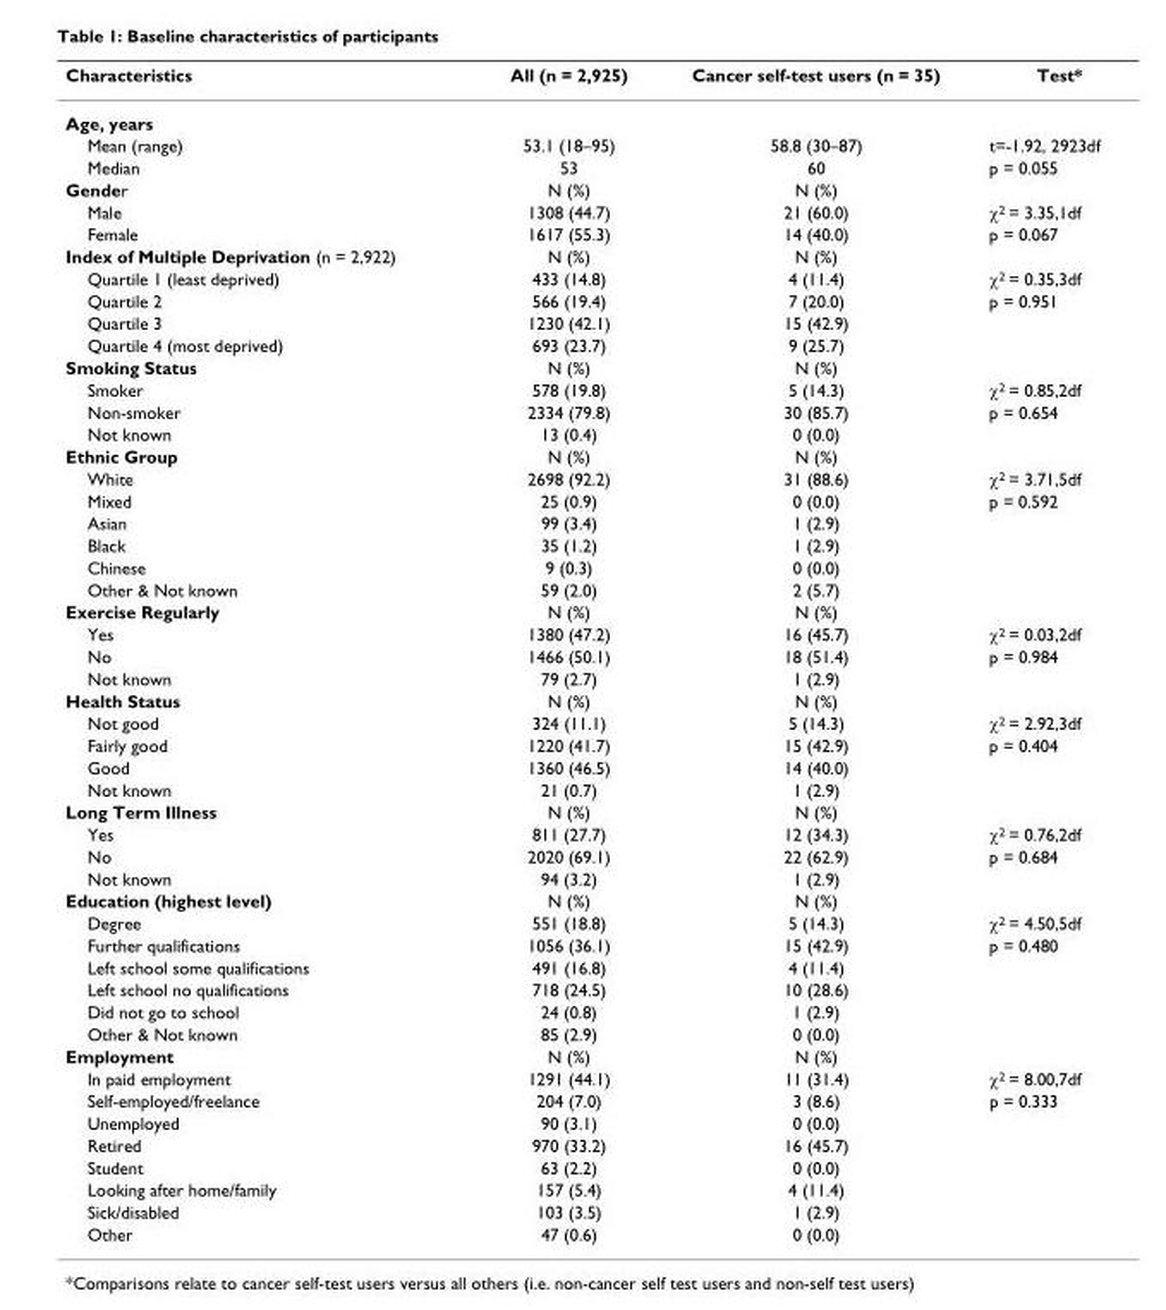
<table><thead><tr><td>Characteristics</td><td>All (n = 2,925)</td><td>Cancer self-test users (n = 35)</td><td>Test*</td></tr></thead><tbody><tr><td colspan="4">Age, years</td></tr><tr><td>Mean (range)</td><td>53.1 (18–95)</td><td>58.8 (30–87)</td><td>t=-1.92, 2923df</td></tr><tr><td>Median</td><td>53</td><td>60</td><td>p = 0.055</td></tr><tr><td>Gender</td><td>N (%)</td><td>N (%)</td><td></td></tr><tr><td>Male</td><td>1308 (44.7)</td><td>21 (60.0)</td><td>χ<sup>2</sup> = 3.35,1df</td></tr><tr><td>Female</td><td>1617 (55.3)</td><td>14 (40.0)</td><td>p = 0.067</td></tr><tr><td>Index of Multiple Deprivation (n = 2,922)</td><td>N (%)</td><td>N (%)</td><td></td></tr><tr><td>Quartile 1 (least deprived)</td><td>433 (14.8)</td><td>4 (11.4)</td><td>χ<sup>2</sup> = 0.35,3df</td></tr><tr><td>Quartile 2</td><td>566 (19.4)</td><td>7 (20.0)</td><td>p = 0.951</td></tr><tr><td>Quartile 3</td><td>1230 (42.1)</td><td>15 (42.9)</td><td></td></tr><tr><td>Quartile 4 (most deprived)</td><td>693 (23.7)</td><td>9 (25.7)</td><td></td></tr><tr><td>Smoking Status</td><td>N (%)</td><td>N (%)</td><td></td></tr><tr><td>Smoker</td><td>578 (19.8)</td><td>5 (14.3)</td><td>χ<sup>2</sup> = 0.85,2df</td></tr><tr><td>Non-smoker</td><td>2334 (79.8)</td><td>30 (85.7)</td><td>p = 0.654</td></tr><tr><td>Not known</td><td>13 (0.4)</td><td>0 (0.0)</td><td></td></tr><tr><td>Ethnic Group</td><td>N (%)</td><td>N (%)</td><td></td></tr><tr><td>White</td><td>2698 (92.2)</td><td>31 (88.6)</td><td>χ<sup>2</sup> = 3.71,5df</td></tr><tr><td>Mixed</td><td>25 (0.9)</td><td>0 (0.0)</td><td>p = 0.592</td></tr><tr><td>Asian</td><td>99 (3.4)</td><td>1 (2.9)</td><td></td></tr><tr><td>Black</td><td>35 (1.2)</td><td>1 (2.9)</td><td></td></tr><tr><td>Chinese</td><td>9 (0.3)</td><td>0 (0.0)</td><td></td></tr><tr><td>Other &amp; Not known</td><td>59 (2.0)</td><td>2 (5.7)</td><td></td></tr><tr><td>Exercise Regularly</td><td>N (%)</td><td>N (%)</td><td></td></tr><tr><td>Yes</td><td>1380 (47.2)</td><td>16 (45.7)</td><td>χ<sup>2</sup> = 0.03,2df</td></tr><tr><td>No</td><td>1466 (50.1)</td><td>18 (51.4)</td><td>p = 0.984</td></tr><tr><td>Not known</td><td>79 (2.7)</td><td>1 (2.9)</td><td></td></tr><tr><td>Health Status</td><td>N (%)</td><td>N (%)</td><td></td></tr><tr><td>Not good</td><td>324 (11.1)</td><td>5 (14.3)</td><td>χ<sup>2</sup> = 2.92,3df</td></tr><tr><td>Fairly good</td><td>1220 (41.7)</td><td>15 (42.9)</td><td>p = 0.404</td></tr><tr><td>Good</td><td>1360 (46.5)</td><td>14 (40.0)</td><td></td></tr><tr><td>Not known</td><td>21 (0.7)</td><td>1 (2.9)</td><td></td></tr><tr><td>Long Term Illness</td><td>N (%)</td><td>N (%)</td><td></td></tr><tr><td>Yes</td><td>811 (27.7)</td><td>12 (34.3)</td><td>χ<sup>2</sup> = 0.76,2df</td></tr><tr><td>No</td><td>2020 (69.1)</td><td>22 (62.9)</td><td>p = 0.684</td></tr><tr><td>Not known</td><td>94 (3.2)</td><td>1 (2.9)</td><td></td></tr><tr><td>Education (highest level)</td><td>N (%)</td><td>N (%)</td><td></td></tr><tr><td>Degree</td><td>551 (18.8)</td><td>5 (14.3)</td><td>χ<sup>2</sup> = 4.50,5df</td></tr><tr><td>Further qualifications</td><td>1056 (36.1)</td><td>15 (42.9)</td><td>p = 0.480</td></tr><tr><td>Left school some qualifications</td><td>491 (16.8)</td><td>4 (11.4)</td><td></td></tr><tr><td>Left school no qualifications</td><td>718 (24.5)</td><td>10 (28.6)</td><td></td></tr><tr><td>Did not go to school</td><td>24 (0.8)</td><td>1 (2.9)</td><td></td></tr><tr><td>Other &amp; Not known</td><td>85 (2.9)</td><td>0 (0.0)</td><td></td></tr><tr><td>Employment</td><td>N (%)</td><td>N (%)</td><td></td></tr><tr><td>In paid employment</td><td>1291 (44.1)</td><td>11 (31.4)</td><td>χ<sup>2</sup> = 8.00,7df</td></tr><tr><td>Self-employed/freelance</td><td>204 (7.0)</td><td>3 (8.6)</td><td>p = 0.333</td></tr><tr><td>Unemployed</td><td>90 (3.1)</td><td>0 (0.0)</td><td></td></tr><tr><td>Retired</td><td>970 (33.2)</td><td>16 (45.7)</td><td></td></tr><tr><td>Student</td><td>63 (2.2)</td><td>0 (0.0)</td><td></td></tr><tr><td>Looking after home/family</td><td>157 (5.4)</td><td>4 (11.4)</td><td></td></tr><tr><td>Sick/disabled</td><td>103 (3.5)</td><td>1 (2.9)</td><td></td></tr><tr><td>Other</td><td>47 (0.6)</td><td>0 (0.0)</td><td></td></tr></tbody></table>